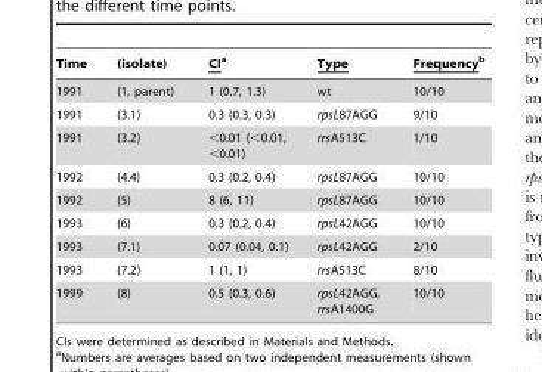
<table><thead><tr><td>Time</td><td>(isolate)</td><td>CIa</td><td>Type</td><td>Frequencyb</td></tr></thead><tbody><tr><td>1991</td><td>(1, parent)</td><td>1 (0.7, 1.3)</td><td>wt</td><td>10/10</td></tr><tr><td>1991</td><td>(3.1)</td><td>0.3 (0.3, 0.3)</td><td>rpsL87AGG</td><td>9/10</td></tr><tr><td>1991</td><td>(3.2)</td><td>&lt;0.01 (&lt;0.01, &lt;0.01)</td><td>rrsA513C</td><td>1/10</td></tr><tr><td>1992</td><td>(4.4)</td><td>0.3 (0.2, 0.4)</td><td>rpsL87AGG</td><td>10/10</td></tr><tr><td>1992</td><td>(5)</td><td>8 (6, 11)</td><td>rpsL87AGG</td><td>10/10</td></tr><tr><td>1993</td><td>(6)</td><td>0.3 (0.2, 0.4)</td><td>rpsL42AGG</td><td>10/10</td></tr><tr><td>1993</td><td>(7.1)</td><td>0.07 (0.04, 0.1)</td><td>rpsL42AGG</td><td>2/10</td></tr><tr><td>1993</td><td>(7.2)</td><td>1 (1, 1)</td><td>rrsA513C</td><td>8/10</td></tr><tr><td>1999</td><td>(8)</td><td>0.5 (0.3, 0.6)</td><td>rpsL42AGG, rrsA1400G</td><td>10/10</td></tr></tbody></table>